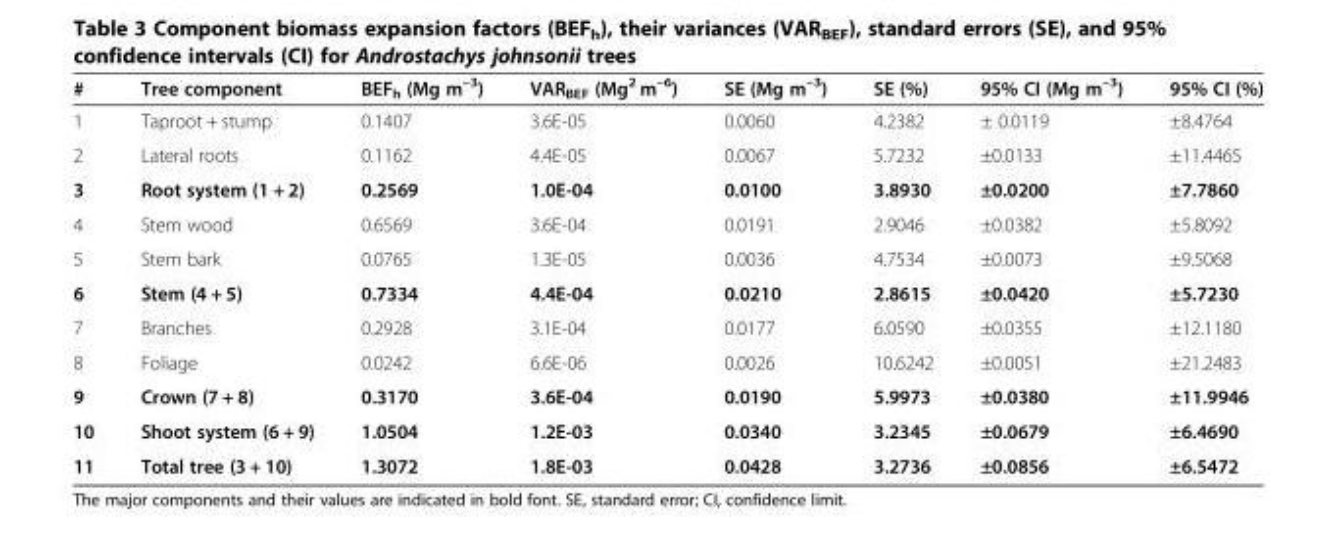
<table><thead><tr><td>#</td><td>Tree component</td><td>BEF<sub>h</sub> (Mg m<sup>–3</sup>)</td><td>VAR<sub>BEF</sub> (Mg<sup>2</sup> m<sup>–6</sup>)</td><td>SE (Mg m<sup>–3</sup>)</td><td>SE (%)</td><td>95% CI (Mg m<sup>–3</sup>)</td><td>95% CI (%)</td></tr></thead><tbody><tr><td>1</td><td>Taproot + stump</td><td>0.1407</td><td>3.6E-05</td><td>0.0060</td><td>4.2382</td><td>± 0.0119</td><td>±8.4764</td></tr><tr><td>2</td><td>Lateral roots</td><td>0.1162</td><td>4.4E-05</td><td>0.0067</td><td>5.7232</td><td>±0.0133</td><td>±11.4465</td></tr><tr><td>3</td><td>Root system (1 + 2)</td><td>0.2569</td><td>1.0E-04</td><td>0.0100</td><td>3.8930</td><td>±0.0200</td><td>±7.7860</td></tr><tr><td>4</td><td>Stem wood</td><td>0.6569</td><td>3.6E-04</td><td>0.0191</td><td>2.9046</td><td>±0.0382</td><td>±5.8092</td></tr><tr><td>5</td><td>Stem bark</td><td>0.0765</td><td>1.3E-05</td><td>0.0036</td><td>4.7534</td><td>±0.0073</td><td>±9.5068</td></tr><tr><td>6</td><td>Stem (4 + 5)</td><td>0.7334</td><td>4.4E-04</td><td>0.0210</td><td>2.8615</td><td>±0.0420</td><td>±5.7230</td></tr><tr><td>7</td><td>Branches</td><td>0.2928</td><td>3.1E-04</td><td>0.0177</td><td>6.0590</td><td>±0.0355</td><td>±12.1180</td></tr><tr><td>8</td><td>Foliage</td><td>0.0242</td><td>6.6E-06</td><td>0.0026</td><td>10.6242</td><td>±0.0051</td><td>±21.2483</td></tr><tr><td>9</td><td>Crown (7 + 8)</td><td>0.3170</td><td>3.6E-04</td><td>0.0190</td><td>5.9973</td><td>±0.0380</td><td>±11.9946</td></tr><tr><td>10</td><td>Shoot system (6 + 9)</td><td>1.0504</td><td>1.2E-03</td><td>0.0340</td><td>3.2345</td><td>±0.0679</td><td>±6.4690</td></tr><tr><td>11</td><td>Total tree (3 + 10)</td><td>1.3072</td><td>1.8E-03</td><td>0.0428</td><td>3.2736</td><td>±0.0856</td><td>±6.5472</td></tr></tbody></table>